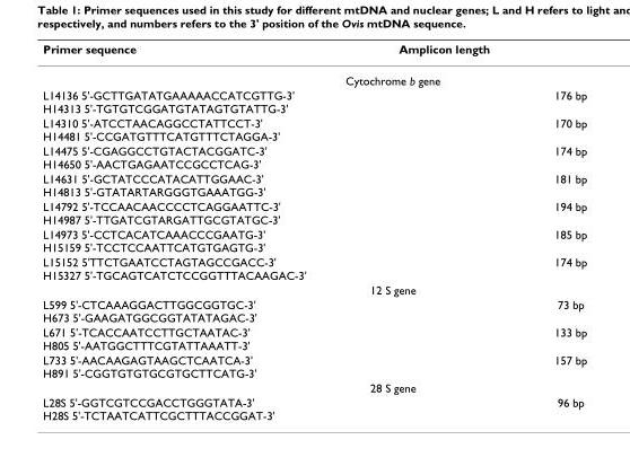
<table><thead><tr><td>Primer sequence</td><td>Amplicon length</td></tr></thead><tbody><tr><td colspan="2">Cytochrome b gene</td></tr><tr><td>L14136 5&#x27;-GCTTGATATGAAAAACCATCGTTG-3&#x27; H14313 5&#x27;-TGTGTCGGATGTATAGTGTATTG-3&#x27;</td><td>176 bp</td></tr><tr><td>L14310 5&#x27;-ATCCTAACAGGCCTATTCCT-3&#x27; H14481 5&#x27;-CCGATGTTTCATGTTTCTAGGA-3&#x27;</td><td>170 bp</td></tr><tr><td>L14475 5&#x27;-CGAGGCCTGTACTACGGATC-3&#x27; H14650 5&#x27;-AACTGAGAATCCGCCTCAG-3&#x27;</td><td>174 bp</td></tr><tr><td>L14631 5&#x27;-GCTATCCCATACATTGGAAC-3&#x27; H14813 5&#x27;-GTATARTARGGGTGAAATGG-3&#x27;</td><td>181 bp</td></tr><tr><td>L14792 5&#x27;-TCCAACAACCCCTCAGGAATTC-3&#x27; H14987 5&#x27;-TTGATCGTARGATTGCGTATGC-3&#x27;</td><td>194 bp</td></tr><tr><td>L14973 5&#x27;-CCTCACATCAAACCCGAATG-3&#x27; H15159 5&#x27;-TCCTCCAATTCATGTGAGTG-3&#x27;</td><td>185 bp</td></tr><tr><td>L15152 5&#x27;TTCTGAATCCTAGTAGCCGACC-3&#x27; H15327 5&#x27;-TGCAGTCATCTCCGGTTTACAAGAC-3&#x27;</td><td>174 bp</td></tr><tr><td colspan="2">12 S gene</td></tr><tr><td>L599 5&#x27;-CTCAAAGGACTTGGCGGTGC-3&#x27; H673 5&#x27;-GAAGATGGCGGTATATAGAC-3&#x27;</td><td>73 bp</td></tr><tr><td>L671 5&#x27;-TCACCAATCCTTGCTAATAC-3&#x27; H805 5&#x27;-AATGGCTTTCGTATTAAATT-3&#x27;</td><td>133 bp</td></tr><tr><td>L733 5&#x27;-AACAAGAGTAAGCTCAATCA-3&#x27; H891 5&#x27;-CGGTGTGTGCGTGCTTCATG-3&#x27;</td><td>157 bp</td></tr><tr><td colspan="2">28 S gene</td></tr><tr><td>L28S 5&#x27;-GGTCGTCCGACCTGGGTATA-3&#x27; H28S 5&#x27;-TCTAATCATTCGCTTTACCGGAT-3&#x27;</td><td>96 bp</td></tr></tbody></table>